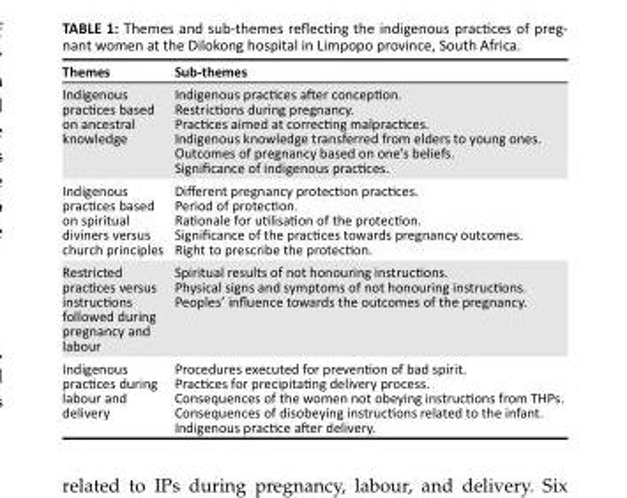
<table><thead><tr><td>Themes</td><td>Sub-themes</td></tr></thead><tbody><tr><td>Indigenous practices based on ancestral knowledge</td><td>Indigenous practices after conception. Restrictions during pregnancy. Practices aimed at correcting malpractices. Indigenous knowledge transferred from elders to young ones. Outcomes of pregnancy based on one’s beliefs. Significance of indigenous practices.</td></tr><tr><td>Indigenous practices based on spiritual diviners versus church principles</td><td>Different pregnancy protection practices. Period of protection. Rationale for utilisation of the protection. Significance of the practices towards pregnancy outcomes. Right to prescribe the protection.</td></tr><tr><td>Restricted practices versus instructions followed during pregnancy and labour</td><td>Spiritual results of not honouring instructions. Physical signs and symptoms of not honouring instructions. Peoples’ influence towards the outcomes of the pregnancy.</td></tr><tr><td>Indigenous practices during labour and delivery</td><td>Procedures executed for prevention of bad spirit. Practices for precipitating delivery process. Consequences of the women not obeying instructions from THPs. Consequences of disobeying instructions related to the infant. Indigenous practice after delivery.</td></tr></tbody></table>